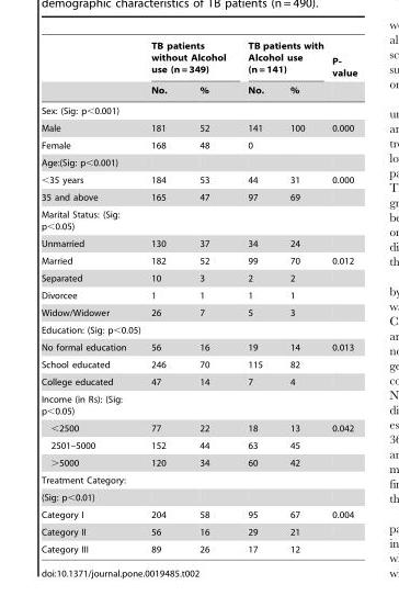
<table><thead><tr><td rowspan="2"></td><td colspan="2">TB patients without Alcohol use (n = 349)</td><td colspan="2">TB patients with Alcohol use (n = 141)</td><td rowspan="2">P- value</td></tr><tr><td>No.</td><td>%</td><td>No.</td><td>%</td></tr></thead><tbody><tr><td colspan="6">Sex: (Sig: p&lt;0.001)</td></tr><tr><td>Male</td><td>181</td><td>52</td><td>141</td><td>100</td><td>0.000</td></tr><tr><td>Female</td><td>168</td><td>48</td><td>0</td><td></td><td></td></tr><tr><td colspan="6">Age:(Sig: p&lt;0.001)</td></tr><tr><td>&lt;35 years</td><td>184</td><td>53</td><td>44</td><td>31</td><td>0.000</td></tr><tr><td>35 and above</td><td>165</td><td>47</td><td>97</td><td>69</td><td></td></tr><tr><td colspan="6">Marital Status: (Sig: p&lt;0.05)</td></tr><tr><td>Unmarried</td><td>130</td><td>37</td><td>34</td><td>24</td><td></td></tr><tr><td>Married</td><td>182</td><td>52</td><td>99</td><td>70</td><td>0.012</td></tr><tr><td>Separated</td><td>10</td><td>3</td><td>2</td><td>2</td><td></td></tr><tr><td>Divorcee</td><td>1</td><td>1</td><td>1</td><td>1</td><td></td></tr><tr><td>Widow/Widower</td><td>26</td><td>7</td><td>5</td><td>3</td><td></td></tr><tr><td colspan="6">Education: (Sig: p&lt;0.05)</td></tr><tr><td>No formal education</td><td>56</td><td>16</td><td>19</td><td>14</td><td>0.013</td></tr><tr><td>School educated</td><td>246</td><td>70</td><td>115</td><td>82</td><td></td></tr><tr><td>College educated</td><td>47</td><td>14</td><td>7</td><td>4</td><td></td></tr><tr><td colspan="6">Income (in Rs): (Sig: p&lt;0.05)</td></tr><tr><td>&lt;2500</td><td>77</td><td>22</td><td>18</td><td>13</td><td>0.042</td></tr><tr><td>2501–5000</td><td>152</td><td>44</td><td>63</td><td>45</td><td></td></tr><tr><td>&gt;5000</td><td>120</td><td>34</td><td>60</td><td>42</td><td></td></tr><tr><td colspan="6">Treatment Category:</td></tr><tr><td colspan="6">(Sig: p&lt;0.01)</td></tr><tr><td>Category I</td><td>204</td><td>58</td><td>95</td><td>67</td><td>0.004</td></tr><tr><td>Category II</td><td>56</td><td>16</td><td>29</td><td>21</td><td></td></tr><tr><td>Category III</td><td>89</td><td>26</td><td>17</td><td>12</td><td></td></tr></tbody></table>